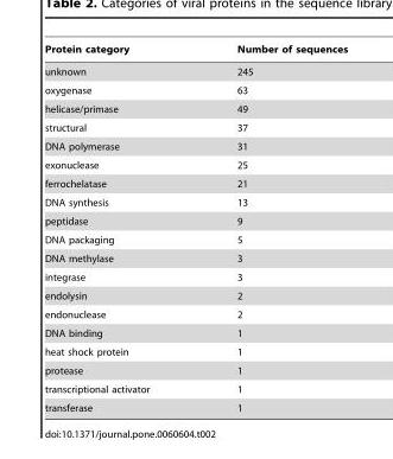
<table><thead><tr><td>Protein category</td><td>Number of sequences</td></tr></thead><tbody><tr><td>unknown</td><td>245</td></tr><tr><td>oxygenase</td><td>63</td></tr><tr><td>helicase/primase</td><td>49</td></tr><tr><td>structural</td><td>37</td></tr><tr><td>DNA polymerase</td><td>31</td></tr><tr><td>exonuclease</td><td>25</td></tr><tr><td>ferrochelatase</td><td>21</td></tr><tr><td>DNA synthesis</td><td>13</td></tr><tr><td>peptidase</td><td>9</td></tr><tr><td>DNA packaging</td><td>5</td></tr><tr><td>DNA methylase</td><td>3</td></tr><tr><td>integrase</td><td>3</td></tr><tr><td>endolysin</td><td>2</td></tr><tr><td>endonuclease</td><td>2</td></tr><tr><td>DNA binding</td><td>1</td></tr><tr><td>heat shock protein</td><td>1</td></tr><tr><td>protease</td><td>1</td></tr><tr><td>transcriptional activator</td><td>1</td></tr><tr><td>transferase</td><td>1</td></tr></tbody></table>